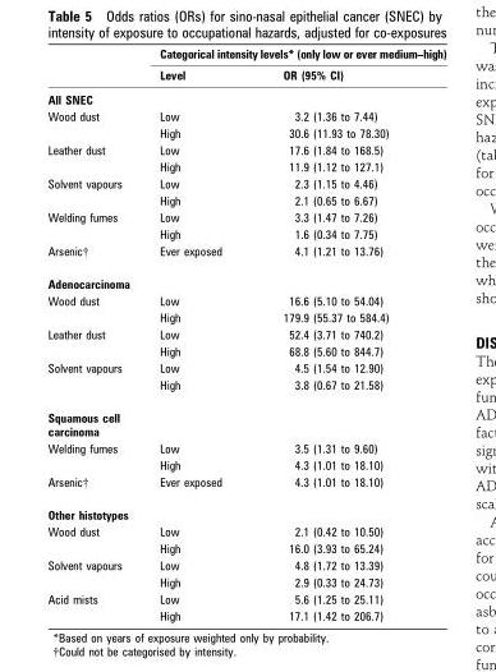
<table><thead><tr><td rowspan="2"></td><td colspan="2">Categorical intensity levels* (only low or ever medium–high)</td></tr><tr><td>Level</td><td>OR (95% CI)</td></tr></thead><tbody><tr><td colspan="3">All SNEC</td></tr><tr><td rowspan="2">Wood dust</td><td>Low</td><td>3.2 (1.36 to 7.44)</td></tr><tr><td>High</td><td>30.6 (11.93 to 78.30)</td></tr><tr><td rowspan="2">Leather dust</td><td>Low</td><td>17.6 (1.84 to 168.5)</td></tr><tr><td>High</td><td>11.9 (1.12 to 127.1)</td></tr><tr><td rowspan="2">Solvent vapours</td><td>Low</td><td>2.3 (1.15 to 4.46)</td></tr><tr><td>High</td><td>2.1 (0.65 to 6.67)</td></tr><tr><td rowspan="2">Welding fumes</td><td>Low</td><td>3.3 (1.47 to 7.26)</td></tr><tr><td>High</td><td>1.6 (0.34 to 7.75)</td></tr><tr><td>Arsenic†</td><td>Ever exposed</td><td>4.1 (1.21 to 13.76)</td></tr><tr><td colspan="3">Adenocarcinoma</td></tr><tr><td rowspan="2">Wood dust</td><td>Low</td><td>16.6 (5.10 to 54.04)</td></tr><tr><td>High</td><td>179.9 (55.37 to 584.4)</td></tr><tr><td rowspan="2">Leather dust</td><td>Low</td><td>52.4 (3.71 to 740.2)</td></tr><tr><td>High</td><td>68.8 (5.60 to 844.7)</td></tr><tr><td rowspan="2">Solvent vapours</td><td>Low</td><td>4.5 (1.54 to 12.90)</td></tr><tr><td>High</td><td>3.8 (0.67 to 21.58)</td></tr><tr><td colspan="3">Squamous cell carcinoma</td></tr><tr><td rowspan="2">Welding fumes</td><td>Low</td><td>3.5 (1.31 to 9.60)</td></tr><tr><td>High</td><td>4.3 (1.01 to 18.10)</td></tr><tr><td>Arsenic†</td><td>Ever exposed</td><td>4.3 (1.01 to 18.10)</td></tr><tr><td colspan="3">Other histotypes</td></tr><tr><td rowspan="2">Wood dust</td><td>Low</td><td>2.1 (0.42 to 10.50)</td></tr><tr><td>High</td><td>16.0 (3.93 to 65.24)</td></tr><tr><td rowspan="2">Solvent vapours</td><td>Low</td><td>4.8 (1.72 to 13.39)</td></tr><tr><td>High</td><td>2.9 (0.33 to 24.73)</td></tr><tr><td rowspan="2">Acid mists</td><td>Low</td><td>5.6 (1.25 to 25.11)</td></tr><tr><td>High</td><td>17.1 (1.42 to 206.7)</td></tr></tbody></table>